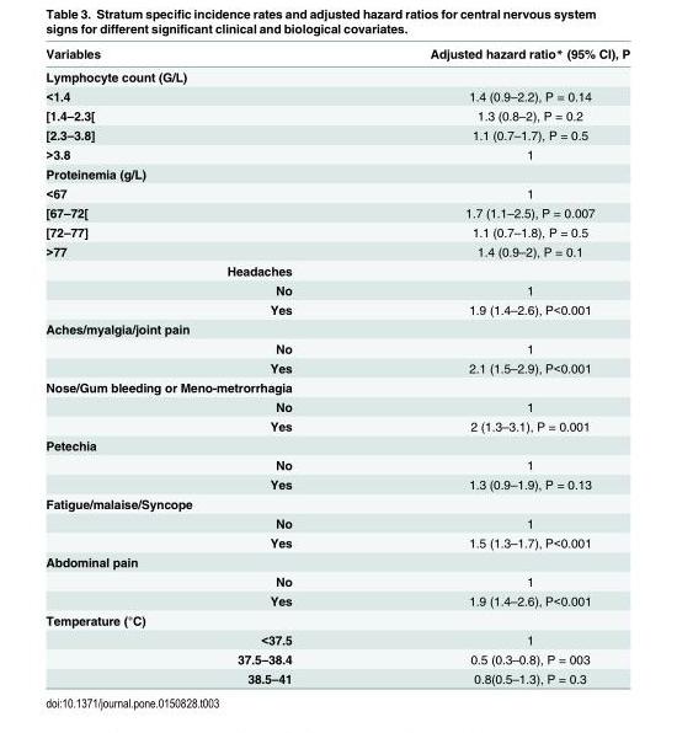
<table><thead><tr><td>Variables</td><td>Adjusted hazard ratio* (95% CI), P</td></tr></thead><tbody><tr><td colspan="2">Lymphocyte count (G/L)</td></tr><tr><td>&lt;1.4</td><td>1.4 (0.9–2.2), P = 0.14</td></tr><tr><td>[1.4–2.3[</td><td>1.3 (0.8–2), P = 0.2</td></tr><tr><td>[2.3–3.8]</td><td>1.1 (0.7–1.7), P = 0.5</td></tr><tr><td>&gt;3.8</td><td>1</td></tr><tr><td colspan="2">Proteinemia (g/L)</td></tr><tr><td>&lt;67</td><td>1</td></tr><tr><td>[67–72[</td><td>1.7 (1.1–2.5), P = 0.007</td></tr><tr><td>[72–77]</td><td>1.1 (0.7–1.8), P = 0.5</td></tr><tr><td>&gt;77</td><td>1.4 (0.9–2), P = 0.1</td></tr><tr><td colspan="2">Headaches</td></tr><tr><td>No</td><td>1</td></tr><tr><td>Yes</td><td>1.9 (1.4–2.6), P&lt;0.001</td></tr><tr><td colspan="2">Aches/myalgia/joint pain</td></tr><tr><td>No</td><td>1</td></tr><tr><td>Yes</td><td>2.1 (1.5–2.9), P&lt;0.001</td></tr><tr><td colspan="2">Nose/Gum bleeding or Meno-metrorrhagia</td></tr><tr><td>No</td><td>1</td></tr><tr><td>Yes</td><td>2 (1.3–3.1), P = 0.001</td></tr><tr><td colspan="2">Petechia</td></tr><tr><td>No</td><td>1</td></tr><tr><td>Yes</td><td>1.3 (0.9–1.9), P = 0.13</td></tr><tr><td colspan="2">Fatigue/malaise/Syncope</td></tr><tr><td>No</td><td>1</td></tr><tr><td>Yes</td><td>1.5 (1.3–1.7), P&lt;0.001</td></tr><tr><td colspan="2">Abdominal pain</td></tr><tr><td>No</td><td>1</td></tr><tr><td>Yes</td><td>1.9 (1.4–2.6), P&lt;0.001</td></tr><tr><td colspan="2">Temperature (°C)</td></tr><tr><td>&lt;37.5</td><td>1</td></tr><tr><td>37.5–38.4</td><td>0.5 (0.3–0.8), P = 003</td></tr><tr><td>38.5–41</td><td>0.8(0.5–1.3), P = 0.3</td></tr></tbody></table>